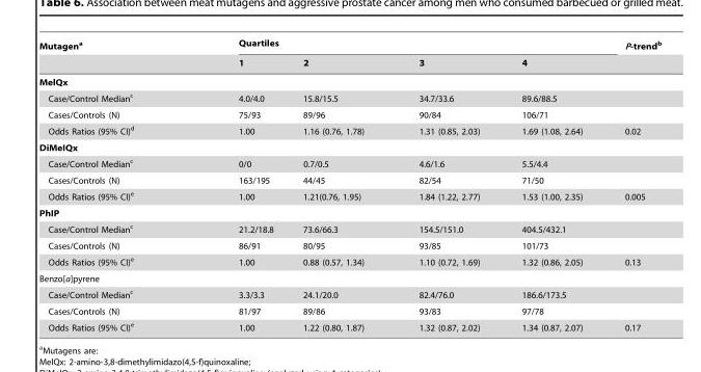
<table><thead><tr><td rowspan="2">Mutagen<sup>a</sup></td><td colspan="4">Quartiles</td><td rowspan="2">P-trend<sup>b</sup></td></tr><tr><td>1</td><td>2</td><td>3</td><td>4</td></tr></thead><tbody><tr><td colspan="6">MelQx</td></tr><tr><td>Case/Control Median<sup>c</sup></td><td>4.0/4.0</td><td>15.8/15.5</td><td>34.7/33.6</td><td>89.6/88.5</td><td></td></tr><tr><td>Cases/Controls (N)</td><td>75/93</td><td>89/96</td><td>90/84</td><td>106/71</td><td></td></tr><tr><td>Odds Ratios (95% CI)<sup>d</sup></td><td>1.00</td><td>1.16 (0.76, 1.78)</td><td>1.31 (0.85, 2.03)</td><td>1.69 (1.08, 2.64)</td><td>0.02</td></tr><tr><td colspan="6">DiMeIQx</td></tr><tr><td>Case/Control Median<sup>c</sup></td><td>0/0</td><td>0.7/0.5</td><td>4.6/1.6</td><td>5.5/4.4</td><td></td></tr><tr><td>Cases/Controls (N)</td><td>163/195</td><td>44/45</td><td>82/54</td><td>71/50</td><td></td></tr><tr><td>Odds Ratios (95% CI)<sup>e</sup></td><td>1.00</td><td>1.21(0.76, 1.95)</td><td>1.84 (1.22, 2.77)</td><td>1.53 (1.00, 2.35)</td><td>0.005</td></tr><tr><td colspan="6">PhIP</td></tr><tr><td>Case/Control Median<sup>c</sup></td><td>21.2/18.8</td><td>73.6/66.3</td><td>154.5/151.0</td><td>404.5/432.1</td><td></td></tr><tr><td>Cases/Controls (N)</td><td>86/91</td><td>80/95</td><td>93/85</td><td>101/73</td><td></td></tr><tr><td>Odds Ratios (95% CI)<sup>e</sup></td><td>1.00</td><td>0.88 (0.57, 1.34)</td><td>1.10 (0.72, 1.69)</td><td>1.32 (0.86, 2.05)</td><td>0.13</td></tr><tr><td colspan="6">Benzo[a]pyrene</td></tr><tr><td>Case/Control Median<sup>c</sup></td><td>3.3/3.3</td><td>24.1/20.0</td><td>82.4/76.0</td><td>186.6/173.5</td><td></td></tr><tr><td>Cases/Controls (N)</td><td>81/97</td><td>89/86</td><td>93/83</td><td>97/78</td><td></td></tr><tr><td>Odds Ratios (95% CI)<sup>e</sup></td><td>1.00</td><td>1.22 (0.80, 1.87)</td><td>1.32 (0.87, 2.02)</td><td>1.34 (0.87, 2.07)</td><td>0.17</td></tr></tbody></table>